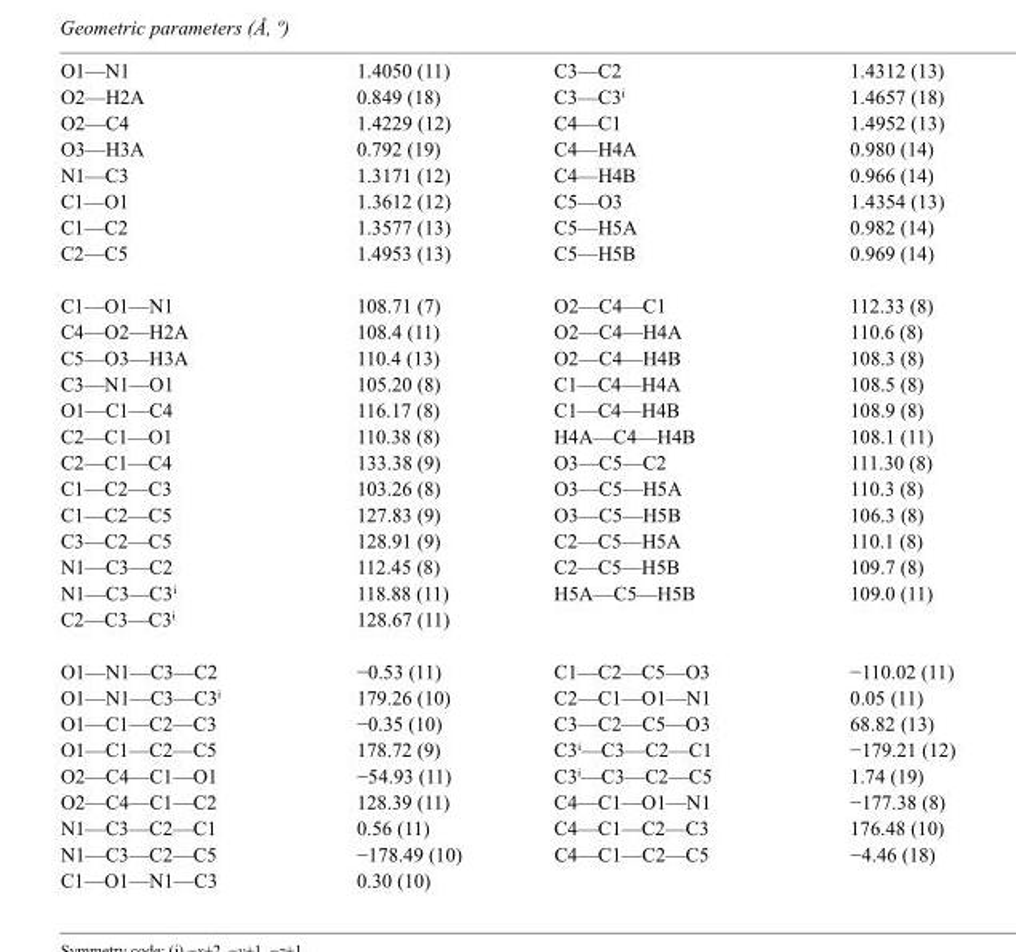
<table><tbody><tr><td>O1—N1</td><td>1.4050 (11)</td><td>C3—C2</td><td>1.4312 (13)</td></tr><tr><td>O2—H2A</td><td>0.849 (18)</td><td>C3—C3<sup>i</sup></td><td>1.4657 (18)</td></tr><tr><td>O2—C4</td><td>1.4229 (12)</td><td>C4—C1</td><td>1.4952 (13)</td></tr><tr><td>O3—H3A</td><td>0.792 (19)</td><td>C4—H4A</td><td>0.980 (14)</td></tr><tr><td>N1—C3</td><td>1.3171 (12)</td><td>C4—H4B</td><td>0.966 (14)</td></tr><tr><td>C1—O1</td><td>1.3612 (12)</td><td>C5—O3</td><td>1.4354 (13)</td></tr><tr><td>C1—C2</td><td>1.3577 (13)</td><td>C5—H5A</td><td>0.982 (14)</td></tr><tr><td>C2—C5</td><td>1.4953 (13)</td><td>C5—H5B</td><td>0.969 (14)</td></tr><tr><td>C1—O1—N1</td><td>108.71 (7)</td><td>O2—C4—C1</td><td>112.33 (8)</td></tr><tr><td>C4—O2—H2A</td><td>108.4 (11)</td><td>O2—C4—H4A</td><td>110.6 (8)</td></tr><tr><td>C5—O3—H3A</td><td>110.4 (13)</td><td>O2—C4—H4B</td><td>108.3 (8)</td></tr><tr><td>C3—N1—O1</td><td>105.20 (8)</td><td>C1—C4—H4A</td><td>108.5 (8)</td></tr><tr><td>O1—C1—C4</td><td>116.17 (8)</td><td>C1—C4—H4B</td><td>108.9 (8)</td></tr><tr><td>C2—C1—O1</td><td>110.38 (8)</td><td>H4A—C4—H4B</td><td>108.1 (11)</td></tr><tr><td>C2—C1—C4</td><td>133.38 (9)</td><td>O3—C5—C2</td><td>111.30 (8)</td></tr><tr><td>C1—C2—C3</td><td>103.26 (8)</td><td>O3—C5—H5A</td><td>110.3 (8)</td></tr><tr><td>C1—C2—C5</td><td>127.83 (9)</td><td>O3—C5—H5B</td><td>106.3 (8)</td></tr><tr><td>C3—C2—C5</td><td>128.91 (9)</td><td>C2—C5—H5A</td><td>110.1 (8)</td></tr><tr><td>N1—C3—C2</td><td>112.45 (8)</td><td>C2—C5—H5B</td><td>109.7 (8)</td></tr><tr><td>N1—C3—C3<sup>i</sup></td><td>118.88 (11)</td><td>H5A—C5—H5B</td><td>109.0 (11)</td></tr><tr><td>C2—C3—C3<sup>i</sup></td><td>128.67 (11)</td><td></td><td></td></tr><tr><td>O1—N1—C3—C2</td><td>−0.53 (11)</td><td>C1—C2—C5—O3</td><td>−110.02 (11)</td></tr><tr><td>O1—N1—C3—C3<sup>i</sup></td><td>179.26 (10)</td><td>C2—C1—O1—N1</td><td>0.05 (11)</td></tr><tr><td>O1—C1—C2—C3</td><td>−0.35 (10)</td><td>C3—C2—C5—O3</td><td>68.82 (13)</td></tr><tr><td>O1—C1—C2—C5</td><td>178.72 (9)</td><td>C3<sup>i</sup>—C3—C2—C1</td><td>−179.21 (12)</td></tr><tr><td>O2—C4—C1—O1</td><td>−54.93 (11)</td><td>C3<sup>i</sup>—C3—C2—C5</td><td>1.74 (19)</td></tr><tr><td>O2—C4—C1—C2</td><td>128.39 (11)</td><td>C4—C1—O1—N1</td><td>−177.38 (8)</td></tr><tr><td>N1—C3—C2—C1</td><td>0.56 (11)</td><td>C4—C1—C2—C3</td><td>176.48 (10)</td></tr><tr><td>N1—C3—C2—C5</td><td>−178.49 (10)</td><td>C4—C1—C2—C5</td><td>−4.46 (18)</td></tr><tr><td>C1—O1—N1—C3</td><td>0.30 (10)</td><td></td><td></td></tr></tbody></table>